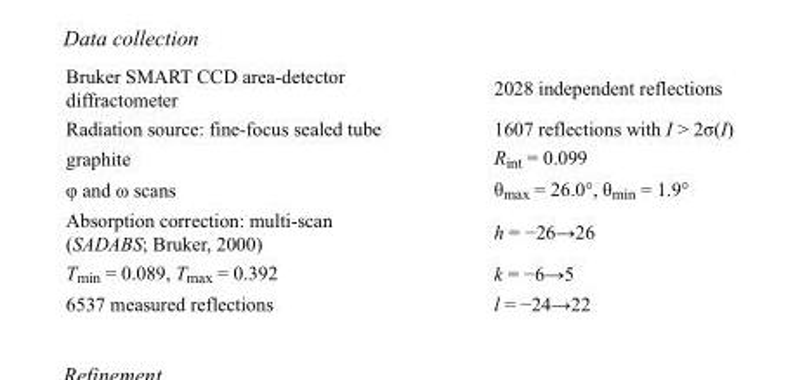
<table><tbody><tr><td>Bruker SMART CCD area-detector diffractometer</td><td>2028 independent reflections</td></tr><tr><td>Radiation source: fine-focus sealed tube</td><td>1607 reflections with I &gt; 2σ(I)</td></tr><tr><td>graphite</td><td>R<sub>int</sub> = 0.099</td></tr><tr><td>φ and ω scans</td><td>θ<sub>max</sub> = 26.0°, θ<sub>min</sub> = 1.9°</td></tr><tr><td>Absorption correction: multi-scan (SADABS; Bruker, 2000)</td><td>h = −26→26</td></tr><tr><td>T<sub>min</sub> = 0.089, T<sub>max</sub> = 0.392</td><td>k = −6→5</td></tr><tr><td>6537 measured reflections</td><td>l = −24→22</td></tr></tbody></table>